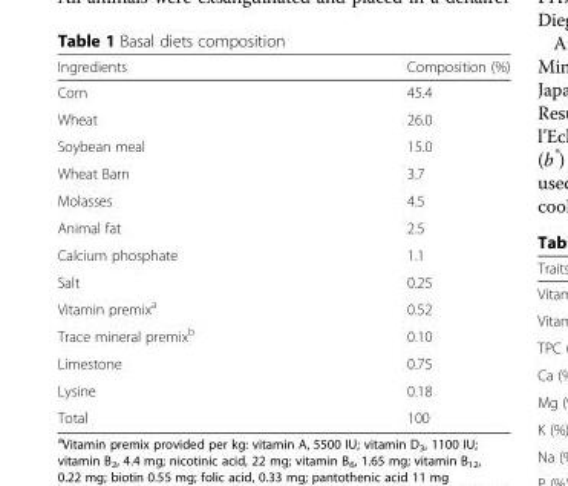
<table><thead><tr><td>Ingredients</td><td>Composition (%)</td></tr></thead><tbody><tr><td>Corn</td><td>45.4</td></tr><tr><td>Wheat</td><td>26.0</td></tr><tr><td>Soybean meal</td><td>15.0</td></tr><tr><td>Wheat Barn</td><td>3.7</td></tr><tr><td>Molasses</td><td>4.5</td></tr><tr><td>Animal fat</td><td>2.5</td></tr><tr><td>Calcium phosphate</td><td>1.1</td></tr><tr><td>Salt</td><td>0.25</td></tr><tr><td>Vitamin premix<sup>a</sup></td><td>0.52</td></tr><tr><td>Trace mineral premix<sup>b</sup></td><td>0.10</td></tr><tr><td>Limestone</td><td>0.75</td></tr><tr><td>Lysine</td><td>0.18</td></tr><tr><td>Total</td><td>100</td></tr></tbody></table>